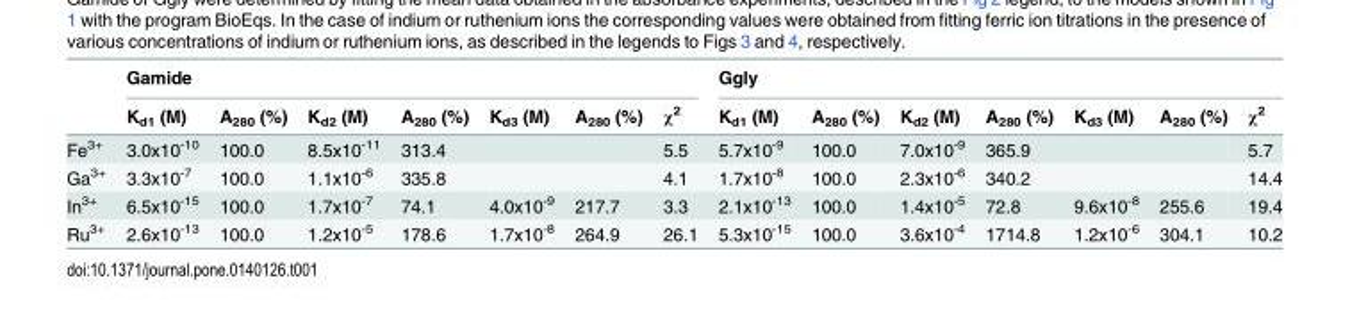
<table><thead><tr><td rowspan="2"></td><td colspan="7">Gamide</td><td colspan="7">Ggly</td></tr><tr><td>K<sub>d1</sub> (M)</td><td>A<sub>280</sub> (%)</td><td>K<sub>d2</sub> (M)</td><td>A<sub>280</sub> (%)</td><td>K<sub>d3</sub> (M)</td><td>A<sub>280</sub> (%)</td><td>χ<sup>2</sup></td><td>K<sub>d1</sub> (M)</td><td>A<sub>280</sub> (%)</td><td>K<sub>d2</sub> (M)</td><td>A<sub>280</sub> (%)</td><td>K<sub>d3</sub> (M)</td><td>A<sub>280</sub> (%)</td><td>χ<sup>2</sup></td></tr></thead><tbody><tr><td>Fe<sup>3+</sup></td><td>3.0x10<sup>-10</sup></td><td>100.0</td><td>8.5x10<sup>-11</sup></td><td>313.4</td><td></td><td></td><td>5.5</td><td>5.7x10<sup>-9</sup></td><td>100.0</td><td>7.0x10<sup>-9</sup></td><td>365.9</td><td></td><td></td><td>5.7</td></tr><tr><td>Ga<sup>3+</sup></td><td>3.3x10<sup>-7</sup></td><td>100.0</td><td>1.1x10<sup>-6</sup></td><td>335.8</td><td></td><td></td><td>4.1</td><td>1.7x10<sup>-8</sup></td><td>100.0</td><td>2.3x10<sup>-6</sup></td><td>340.2</td><td></td><td></td><td>14.4</td></tr><tr><td>In<sup>3+</sup></td><td>6.5x10<sup>-15</sup></td><td>100.0</td><td>1.7x10<sup>-7</sup></td><td>74.1</td><td>4.0x10<sup>-9</sup></td><td>217.7</td><td>3.3</td><td>2.1x10<sup>-13</sup></td><td>100.0</td><td>1.4x10<sup>-5</sup></td><td>72.8</td><td>9.6x10<sup>-8</sup></td><td>255.6</td><td>19.4</td></tr><tr><td>Ru<sup>3+</sup></td><td>2.6x10<sup>-13</sup></td><td>100.0</td><td>1.2x10<sup>-5</sup></td><td>178.6</td><td>1.7x10<sup>-8</sup></td><td>264.9</td><td>26.1</td><td>5.3x10<sup>-15</sup></td><td>100.0</td><td>3.6x10<sup>-4</sup></td><td>1714.8</td><td>1.2x10<sup>-6</sup></td><td>304.1</td><td>10.2</td></tr></tbody></table>